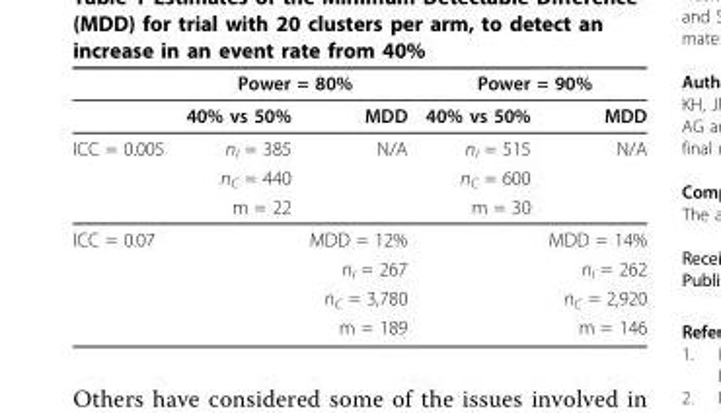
<table><thead><tr><td rowspan="2"></td><td colspan="2">Power = 80%</td><td colspan="2">Power = 90%</td></tr><tr><td>40% vs 50%</td><td>MDD</td><td>40% vs 50%</td><td>MDD</td></tr></thead><tbody><tr><td rowspan="3">ICC = 0.005</td><td>n<sub>I</sub> = 385</td><td>N/A</td><td>n<sub>I</sub> = 515</td><td>N/A</td></tr><tr><td>n<sub>C</sub> = 440</td><td></td><td>n<sub>C</sub> = 600</td><td></td></tr><tr><td>m = 22</td><td></td><td>m = 30</td><td></td></tr><tr><td rowspan="4">ICC = 0.07</td><td></td><td>MDD = 12%</td><td></td><td>MDD = 14%</td></tr><tr><td></td><td>n<sub>I</sub> = 267</td><td></td><td>n<sub>I</sub> = 262</td></tr><tr><td></td><td>n<sub>C</sub> = 3,780</td><td></td><td>n<sub>C</sub> = 2,920</td></tr><tr><td></td><td>m = 189</td><td></td><td>m = 146</td></tr></tbody></table>